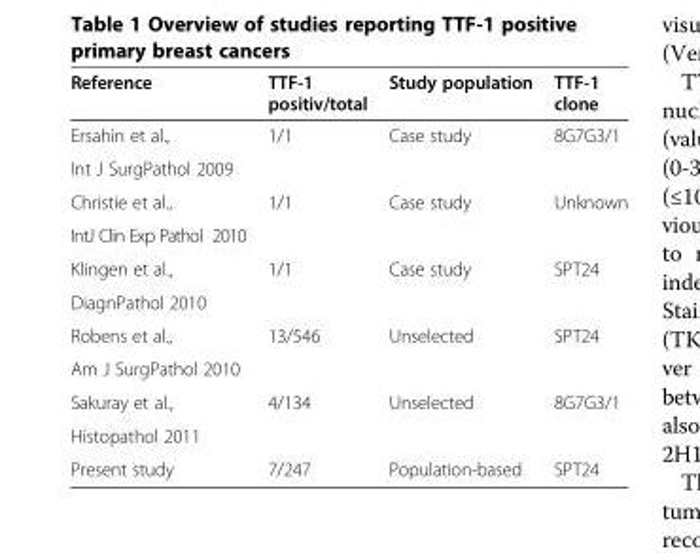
<table><thead><tr><td>Reference</td><td>TTF-1 positiv/total</td><td>Study population</td><td>TTF-1 clone</td></tr></thead><tbody><tr><td>Ersahin et al.,</td><td rowspan="2">1/1</td><td rowspan="2">Case study</td><td rowspan="2">8G7G3/1</td></tr><tr><td>Int J SurgPathol 2009</td></tr><tr><td>Christie et al.,</td><td rowspan="2">1/1</td><td rowspan="2">Case study</td><td rowspan="2">Unknown</td></tr><tr><td>IntJ Clin Exp Pathol 2010</td></tr><tr><td>Klingen et al.,</td><td rowspan="2">1/1</td><td rowspan="2">Case study</td><td rowspan="2">SPT24</td></tr><tr><td>DiagnPathol 2010</td></tr><tr><td>Robens et al.,</td><td rowspan="2">13/546</td><td rowspan="2">Unselected</td><td rowspan="2">SPT24</td></tr><tr><td>Am J SurgPathol 2010</td></tr><tr><td>Sakuray et al.,</td><td rowspan="2">4/134</td><td rowspan="2">Unselected</td><td rowspan="2">8G7G3/1</td></tr><tr><td>Histopathol 2011</td></tr><tr><td>Present study</td><td>7/247</td><td>Population-based</td><td>SPT24</td></tr></tbody></table>